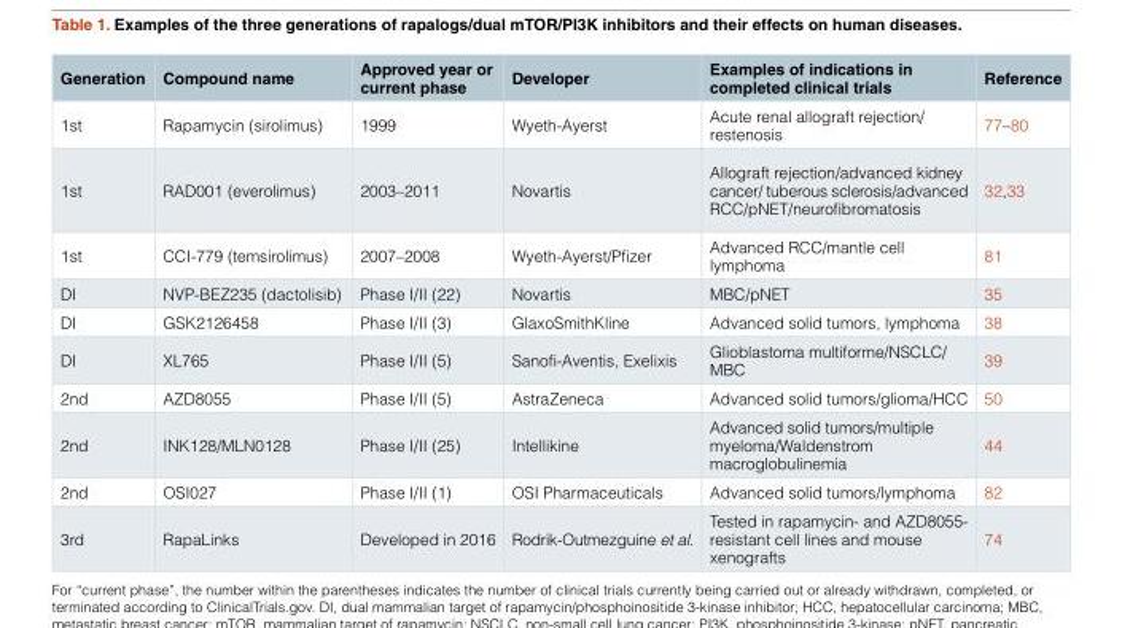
<table><thead><tr><td>Generation</td><td>Compound name</td><td>Approved year or current phase</td><td>Developer</td><td>Examples of indications in completed clinical trials</td><td>Reference</td></tr></thead><tbody><tr><td>1st</td><td>Rapamycin (sirolimus)</td><td>1999</td><td>Wyeth-Ayerst</td><td>Acute renal allograft rejection/ restenosis</td><td>77–80</td></tr><tr><td>1st</td><td>RAD001 (everolimus)</td><td>2003–2011</td><td>Novartis</td><td>Allograft rejection/advanced kidney cancer/ tuberous sclerosis/advanced RCC/pNET/neurofibromatosis</td><td>32,33</td></tr><tr><td>1st</td><td>CCI-779 (temsirolimus)</td><td>2007–2008</td><td>Wyeth-Ayerst/Pfizer</td><td>Advanced RCC/mantle cell lymphoma</td><td>81</td></tr><tr><td>DI</td><td>NVP-BEZ235 (dactolisib)</td><td>Phase I/II (22)</td><td>Novartis</td><td>MBC/pNET</td><td>35</td></tr><tr><td>DI</td><td>GSK2126458</td><td>Phase I/II (3)</td><td>GlaxoSmithKline</td><td>Advanced solid tumors, lymphoma</td><td>38</td></tr><tr><td>DI</td><td>XL765</td><td>Phase I/II (5)</td><td>Sanofi-Aventis, Exelixis</td><td>Glioblastoma multiforme/NSCLC/ MBC</td><td>39</td></tr><tr><td>2nd</td><td>AZD8055</td><td>Phase I/II (5)</td><td>AstraZeneca</td><td>Advanced solid tumors/glioma/HCC</td><td>50</td></tr><tr><td>2nd</td><td>INK128/MLN0128</td><td>Phase I/II (25)</td><td>Intellikine</td><td>Advanced solid tumors/multiple myeloma/Waldenstrom macroglobulinemia</td><td>44</td></tr><tr><td>2nd</td><td>OSI027</td><td>Phase I/II (1)</td><td>OSI Pharmaceuticals</td><td>Advanced solid tumors/lymphoma</td><td>82</td></tr><tr><td>3rd</td><td>RapaLinks</td><td>Developed in 2016</td><td>Rodrik-Outmezguine et al.</td><td>Tested in rapamycin- and AZD8055- resistant cell lines and mouse xenografts</td><td>74</td></tr></tbody></table>